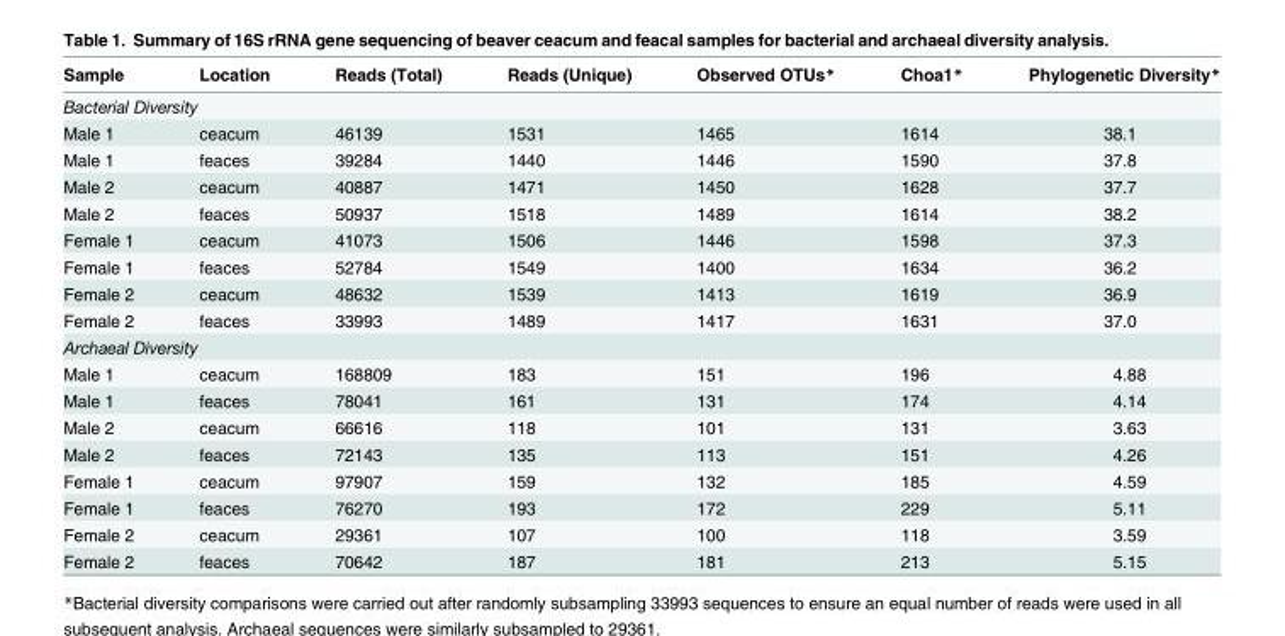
<table><thead><tr><td>Sample</td><td>Location</td><td>Reads (Total)</td><td>Reads (Unique)</td><td>Observed OTUs*</td><td>Choa1*</td><td>Phylogenetic Diversity*</td></tr></thead><tbody><tr><td colspan="7">Bacterial Diversity</td></tr><tr><td>Male 1</td><td>ceacum</td><td>46139</td><td>1531</td><td>1465</td><td>1614</td><td>38.1</td></tr><tr><td>Male 1</td><td>feaces</td><td>39284</td><td>1440</td><td>1446</td><td>1590</td><td>37.8</td></tr><tr><td>Male 2</td><td>ceacum</td><td>40887</td><td>1471</td><td>1450</td><td>1628</td><td>37.7</td></tr><tr><td>Male 2</td><td>feaces</td><td>50937</td><td>1518</td><td>1489</td><td>1614</td><td>38.2</td></tr><tr><td>Female 1</td><td>ceacum</td><td>41073</td><td>1506</td><td>1446</td><td>1598</td><td>37.3</td></tr><tr><td>Female 1</td><td>feaces</td><td>52784</td><td>1549</td><td>1400</td><td>1634</td><td>36.2</td></tr><tr><td>Female 2</td><td>ceacum</td><td>48632</td><td>1539</td><td>1413</td><td>1619</td><td>36.9</td></tr><tr><td>Female 2</td><td>feaces</td><td>33993</td><td>1489</td><td>1417</td><td>1631</td><td>37.0</td></tr><tr><td colspan="7">Archaeal Diversity</td></tr><tr><td>Male 1</td><td>ceacum</td><td>168809</td><td>183</td><td>151</td><td>196</td><td>4.88</td></tr><tr><td>Male 1</td><td>feaces</td><td>78041</td><td>161</td><td>131</td><td>174</td><td>4.14</td></tr><tr><td>Male 2</td><td>ceacum</td><td>66616</td><td>118</td><td>101</td><td>131</td><td>3.63</td></tr><tr><td>Male 2</td><td>feaces</td><td>72143</td><td>135</td><td>113</td><td>151</td><td>4.26</td></tr><tr><td>Female 1</td><td>ceacum</td><td>97907</td><td>159</td><td>132</td><td>185</td><td>4.59</td></tr><tr><td>Female 1</td><td>feaces</td><td>76270</td><td>193</td><td>172</td><td>229</td><td>5.11</td></tr><tr><td>Female 2</td><td>ceacum</td><td>29361</td><td>107</td><td>100</td><td>118</td><td>3.59</td></tr><tr><td>Female 2</td><td>feaces</td><td>70642</td><td>187</td><td>181</td><td>213</td><td>5.15</td></tr></tbody></table>